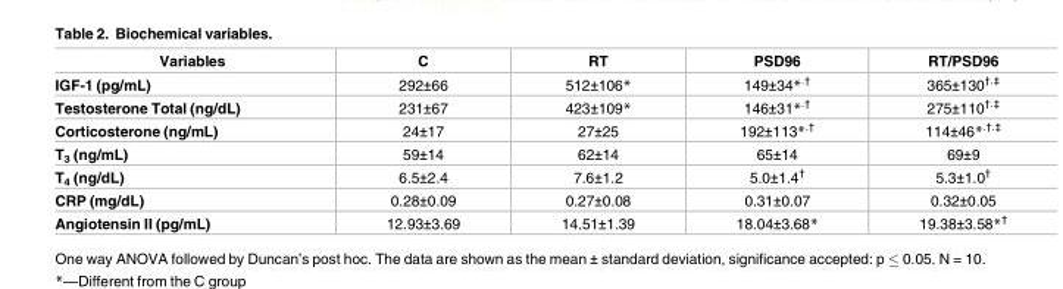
<table><thead><tr><td>Variables</td><td>C</td><td>RT</td><td>PSD96</td><td>RT/PSD96</td></tr></thead><tbody><tr><td>IGF-1 (pg/mL)</td><td>292±66</td><td>512±106*</td><td>149±34*<sup>.†</sup></td><td>365±130<sup>†.‡</sup></td></tr><tr><td>Testosterone Total (ng/dL)</td><td>231±67</td><td>423±109*</td><td>146±31*<sup>.†</sup></td><td>275±110<sup>†.‡</sup></td></tr><tr><td>Corticosterone (ng/mL)</td><td>24±17</td><td>27±25</td><td>192±113*<sup>.†</sup></td><td>114±46*<sup>.†.‡</sup></td></tr><tr><td>T<sub>3</sub> (ng/mL)</td><td>59±14</td><td>62±14</td><td>65±14</td><td>69±9</td></tr><tr><td>T<sub>4</sub> (ng/dL)</td><td>6.5±2.4</td><td>7.6±1.2</td><td>5.0±1.4<sup>†</sup></td><td>5.3±1.0<sup>†</sup></td></tr><tr><td>CRP (mg/dL)</td><td>0.28±0.09</td><td>0.27±0.08</td><td>0.31±0.07</td><td>0.32±0.05</td></tr><tr><td>Angiotensin II (pg/mL)</td><td>12.93±3.69</td><td>14.51±1.39</td><td>18.04±3.68*</td><td>19.38±3.58*<sup>†</sup></td></tr></tbody></table>